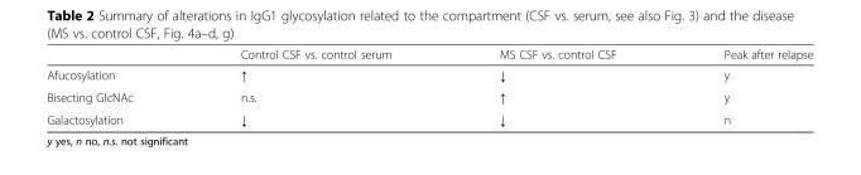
<table><thead><tr><td></td><td>Control CSF vs. control serum</td><td>MS CSF vs. control CSF</td><td>Peak after relapse</td></tr></thead><tbody><tr><td>Afucosylation</td><td>↑</td><td>↓</td><td>y</td></tr><tr><td>Bisecting GlcNAc</td><td>n.s.</td><td>↑</td><td>y</td></tr><tr><td>Galactosylation</td><td>↓</td><td>↓</td><td>n</td></tr></tbody></table>